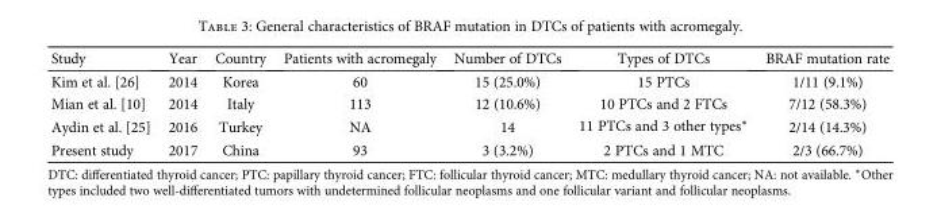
<table><thead><tr><td>Study</td><td>Year</td><td>Country</td><td>Patients with acromegaly</td><td>Number of DTCs</td><td>Types of DTCs</td><td>BRAF mutation rate</td></tr></thead><tbody><tr><td>Kim et al. [26]</td><td>2014</td><td>Korea</td><td>60</td><td>15 (25.0%)</td><td>15 PTCs</td><td>1/11 (9.1%)</td></tr><tr><td>Mian et al. [10]</td><td>2014</td><td>Italy</td><td>113</td><td>12 (10.6%)</td><td>10 PTCs and 2 FTCs</td><td>7/12 (58.3%)</td></tr><tr><td>Aydin et al. [25]</td><td>2016</td><td>Turkey</td><td>NA</td><td>14</td><td>11 PTCs and 3 other types∗</td><td>2/14 (14.3%)</td></tr><tr><td>Present study</td><td>2017</td><td>China</td><td>93</td><td>3 (3.2%)</td><td>2 PTCs and 1 MTC</td><td>2/3 (66.7%)</td></tr></tbody></table>